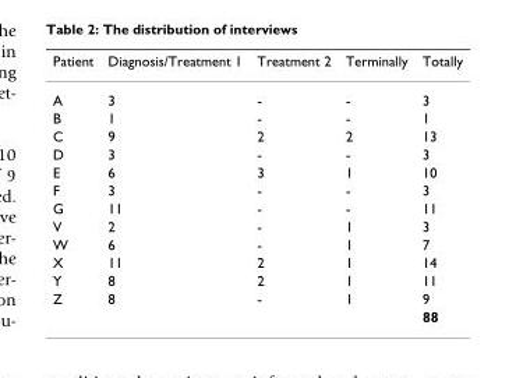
<table><thead><tr><td>Patient</td><td>Diagnosis/Treatment 1</td><td>Treatment 2</td><td>Terminally</td><td>Totally</td></tr></thead><tbody><tr><td>A</td><td>3</td><td>-</td><td>-</td><td>3</td></tr><tr><td>B</td><td>1</td><td>-</td><td>-</td><td>1</td></tr><tr><td>C</td><td>9</td><td>2</td><td>2</td><td>13</td></tr><tr><td>D</td><td>3</td><td>-</td><td>-</td><td>3</td></tr><tr><td>E</td><td>6</td><td>3</td><td>1</td><td>10</td></tr><tr><td>F</td><td>3</td><td>-</td><td>-</td><td>3</td></tr><tr><td>G</td><td>11</td><td>-</td><td>-</td><td>11</td></tr><tr><td>V</td><td>2</td><td>-</td><td>1</td><td>3</td></tr><tr><td>W</td><td>6</td><td>-</td><td>1</td><td>7</td></tr><tr><td>X</td><td>11</td><td>2</td><td>1</td><td>14</td></tr><tr><td>Y</td><td>8</td><td>2</td><td>1</td><td>11</td></tr><tr><td rowspan="2">Z</td><td>8</td><td>-</td><td>1</td><td>9</td></tr><tr><td></td><td></td><td></td><td>88</td></tr></tbody></table>